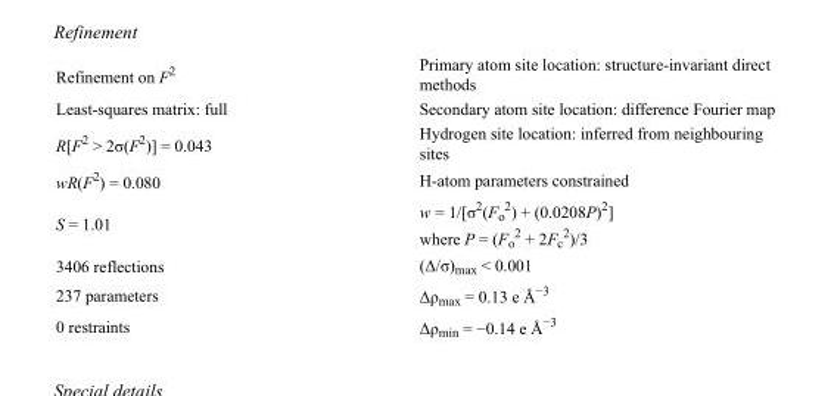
<table><tbody><tr><td>Refinement on F<sup>2</sup></td><td>Primary atom site location: structure-invariant direct methods</td></tr><tr><td>Least-squares matrix: full</td><td>Secondary atom site location: difference Fourier map</td></tr><tr><td>R[F<sup>2</sup> &gt; 2σ(F<sup>2</sup>)] = 0.043</td><td>Hydrogen site location: inferred from neighbouring sites</td></tr><tr><td>wR(F<sup>2</sup>) = 0.080</td><td>H-atom parameters constrained</td></tr><tr><td>S = 1.01</td><td>w = 1/[σ<sup>2</sup>(F<sub>o</sub> <sup>2</sup>) + (0.0208P)<sup>2</sup>] where P = (F<sub>o</sub> <sup>2</sup> + 2F<sub>c</sub> <sup>2</sup>)/3</td></tr><tr><td>3406 reflections</td><td>(Δ/σ)<sub>max</sub> &lt; 0.001</td></tr><tr><td>237 parameters</td><td>Δρ<sub>max</sub> = 0.13 e Å<sup>−3</sup></td></tr><tr><td>0 restraints</td><td>Δρ<sub>min</sub> = −0.14 e Å<sup>−3</sup></td></tr></tbody></table>